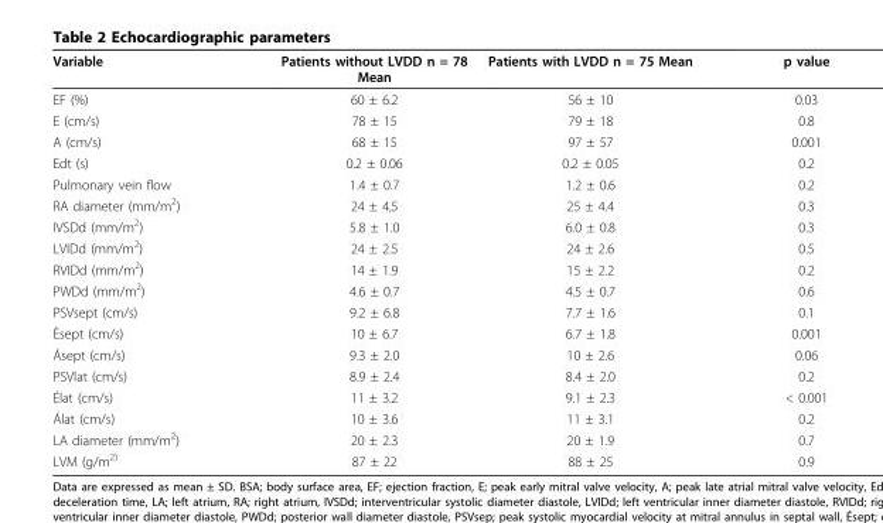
<table><thead><tr><td>Variable</td><td>Patients without LVDD n = 78 Mean</td><td>Patients with LVDD n = 75 Mean</td><td>p value</td></tr></thead><tbody><tr><td>EF (%)</td><td>60 ± 6.2</td><td>56 ± 10</td><td>0.03</td></tr><tr><td>E (cm/s)</td><td>78 ± 15</td><td>79 ± 18</td><td>0.8</td></tr><tr><td>A (cm/s)</td><td>68 ± 15</td><td>97 ± 57</td><td>0.001</td></tr><tr><td>Edt (s)</td><td>0.2 ± 0.06</td><td>0.2 ± 0.05</td><td>0.2</td></tr><tr><td>Pulmonary vein flow</td><td>1.4 ± 0.7</td><td>1.2 ± 0.6</td><td>0.2</td></tr><tr><td>RA diameter (mm/m<sup>2</sup>)</td><td>24 ± 4,5</td><td>25 ± 4.4</td><td>0.3</td></tr><tr><td>IVSDd (mm/m<sup>2</sup>)</td><td>5.8 ± 1.0</td><td>6.0 ± 0.8</td><td>0.3</td></tr><tr><td>LVIDd (mm/m<sup>2</sup>)</td><td>24 ± 2.5</td><td>24 ± 2.6</td><td>0.5</td></tr><tr><td>RVIDd (mm/m<sup>2</sup>)</td><td>14 ± 1.9</td><td>15 ± 2.2</td><td>0.2</td></tr><tr><td>PWDd (mm/m<sup>2</sup>)</td><td>4.6 ± 0.7</td><td>4.5 ± 0.7</td><td>0.6</td></tr><tr><td>PSVsept (cm/s)</td><td>9.2 ± 6.8</td><td>7.7 ± 1.6</td><td>0.1</td></tr><tr><td>Èsept (cm/s)</td><td>10 ± 6.7</td><td>6.7 ± 1.8</td><td>0.001</td></tr><tr><td>Ásept (cm/s)</td><td>9.3 ± 2.0</td><td>10 ± 2.6</td><td>0.06</td></tr><tr><td>PSVlat (cm/s)</td><td>8.9 ± 2.4</td><td>8.4 ± 2.0</td><td>0.2</td></tr><tr><td>Élat (cm/s)</td><td>11 ± 3.2</td><td>9.1 ± 2.3</td><td>&lt; 0.001</td></tr><tr><td>Álat (cm/s)</td><td>10 ± 3.6</td><td>11 ± 3.1</td><td>0.2</td></tr><tr><td>LA diameter (mm/m<sup>2</sup>)</td><td>20 ± 2.3</td><td>20 ± 1.9</td><td>0.7</td></tr><tr><td>LVM (g/m<sup>2)</sup></td><td>87 ± 22</td><td>88 ± 25</td><td>0.9</td></tr></tbody></table>